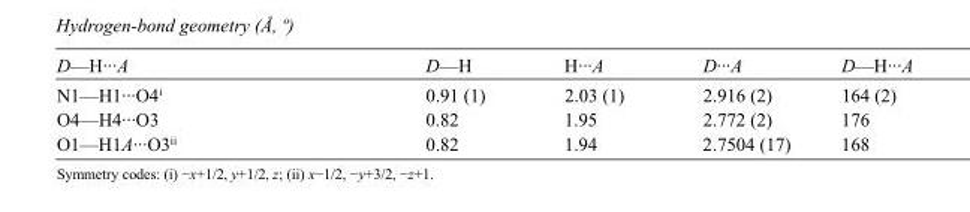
<table><tbody><tr><td>D—H···A</td><td>D—H</td><td>H···A</td><td>D···A</td><td>D—H···A</td></tr><tr><td>N1—H1···O4<sup>i</sup></td><td>0.91 (1)</td><td>2.03 (1)</td><td>2.916 (2)</td><td>164 (2)</td></tr><tr><td>O4—H4···O3</td><td>0.82</td><td>1.95</td><td>2.772 (2)</td><td>176</td></tr><tr><td>O1—H1A···O3<sup>ii</sup></td><td>0.82</td><td>1.94</td><td>2.7504 (17)</td><td>168</td></tr></tbody></table>